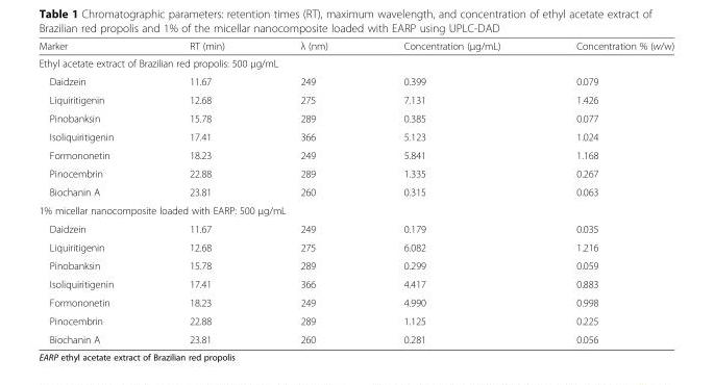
<table><thead><tr><td>Marker</td><td>RT (min)</td><td>λ (nm)</td><td>Concentration (μg/mL)</td><td>Concentration % (w/w)</td></tr></thead><tbody><tr><td colspan="5">Ethyl acetate extract of Brazilian red propolis: 500 μg/mL</td></tr><tr><td>Daidzein</td><td>11.67</td><td>249</td><td>0.399</td><td>0.079</td></tr><tr><td>Liquiritigenin</td><td>12.68</td><td>275</td><td>7.131</td><td>1.426</td></tr><tr><td>Pinobanksin</td><td>15.78</td><td>289</td><td>0.385</td><td>0.077</td></tr><tr><td>Isoliquiritigenin</td><td>17.41</td><td>366</td><td>5.123</td><td>1.024</td></tr><tr><td>Formononetin</td><td>18.23</td><td>249</td><td>5.841</td><td>1.168</td></tr><tr><td>Pinocembrin</td><td>22.88</td><td>289</td><td>1.335</td><td>0.267</td></tr><tr><td>Biochanin A</td><td>23.81</td><td>260</td><td>0.315</td><td>0.063</td></tr><tr><td colspan="5">1% micellar nanocomposite loaded with EARP: 500 μg/mL</td></tr><tr><td>Daidzein</td><td>11.67</td><td>249</td><td>0.179</td><td>0.035</td></tr><tr><td>Liquiritigenin</td><td>12.68</td><td>275</td><td>6.082</td><td>1.216</td></tr><tr><td>Pinobanksin</td><td>15.78</td><td>289</td><td>0.299</td><td>0.059</td></tr><tr><td>Isoliquiritigenin</td><td>17.41</td><td>366</td><td>4.417</td><td>0.883</td></tr><tr><td>Formononetin</td><td>18.23</td><td>249</td><td>4.990</td><td>0.998</td></tr><tr><td>Pinocembrin</td><td>22.88</td><td>289</td><td>1.125</td><td>0.225</td></tr><tr><td>Biochanin A</td><td>23.81</td><td>260</td><td>0.281</td><td>0.056</td></tr></tbody></table>